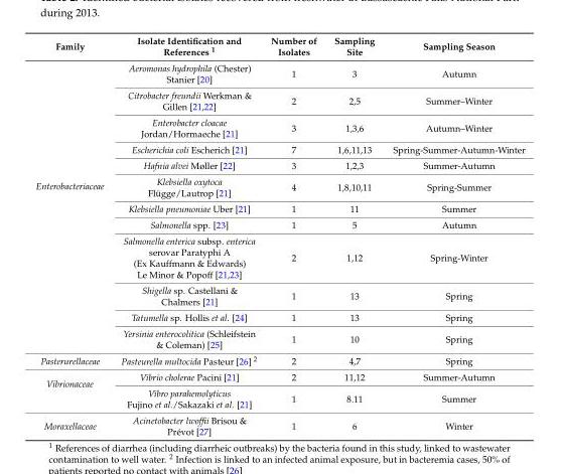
<table><thead><tr><td>Family</td><td>Isolate Identification and References <sup>1</sup></td><td>Number of Isolates</td><td>Sampling Site</td><td>Sampling Season</td></tr></thead><tbody><tr><td rowspan="12">Enterobacteriaceae</td><td>Aeromonas hydrophila (Chester) Stanier [20]</td><td>1</td><td>3</td><td>Autumn</td></tr><tr><td>Citrobacter freundii Werkman &amp; Gillen [21,22]</td><td>2</td><td>2,5</td><td>Summer–Winter</td></tr><tr><td>Enterobacter cloacae Jordan/Hormaeche [21]</td><td>3</td><td>1,3,6</td><td>Autumn–Winter</td></tr><tr><td>Escherichia coli Escherich [21]</td><td>7</td><td>1,6,11,13</td><td>Spring-Summer-Autumn-Winter</td></tr><tr><td>Hafnia alvei Møller [22]</td><td>3</td><td>1,2,3</td><td>Summer-Autumn</td></tr><tr><td>Klebsiella oxytoca Flügge/Lautrop [21]</td><td>4</td><td>1,8,10,11</td><td>Spring-Summer</td></tr><tr><td>Klebsiella pneumoniae Uber [21]</td><td>1</td><td>11</td><td>Summer</td></tr><tr><td>Salmonella spp. [23]</td><td>1</td><td>5</td><td>Autumn</td></tr><tr><td>Salmonella enterica subsp. enterica serovar Paratyphi A (Ex Kauffmann &amp; Edwards) Le Minor &amp; Popoff [21,23]</td><td>2</td><td>1,12</td><td>Spring-Winter</td></tr><tr><td>Shigella sp. Castellani &amp; Chalmers [21]</td><td>1</td><td>13</td><td>Spring</td></tr><tr><td>Tatumella sp. Hollis et al. [24]</td><td>1</td><td>13</td><td>Spring</td></tr><tr><td>Yersinia enterocolitica (Schleifstein &amp; Coleman) [25]</td><td>1</td><td>10</td><td>Spring</td></tr><tr><td>Pasterurellaceae</td><td>Pasteurella multocida Pasteur [26] <sup>2</sup></td><td>2</td><td>4,7</td><td>Spring</td></tr><tr><td rowspan="2">Vibrionaceae</td><td>Vibrio cholerae Pacini [21]</td><td>2</td><td>11,12</td><td>Summer-Autumn</td></tr><tr><td>Vibro parahemolyticus Fujino et al./Sakazaki et al. [21]</td><td>1</td><td>8.11</td><td>Summer</td></tr><tr><td>Moraxellaceae</td><td>Acinetobacter lwoffii Brisou &amp; Prévot [27]</td><td>1</td><td>6</td><td>Winter</td></tr></tbody></table>